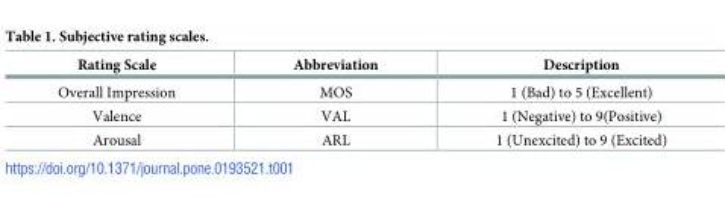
<table><thead><tr><td>Rating Scale</td><td>Abbreviation</td><td>Description</td></tr></thead><tbody><tr><td>Overall Impression</td><td>MOS</td><td>1 (Bad) to 5 (Excellent)</td></tr><tr><td>Valence</td><td>VAL</td><td>1 (Negative) to 9(Positive)</td></tr><tr><td>Arousal</td><td>ARL</td><td>1 (Unexcited) to 9 (Excited)</td></tr></tbody></table>